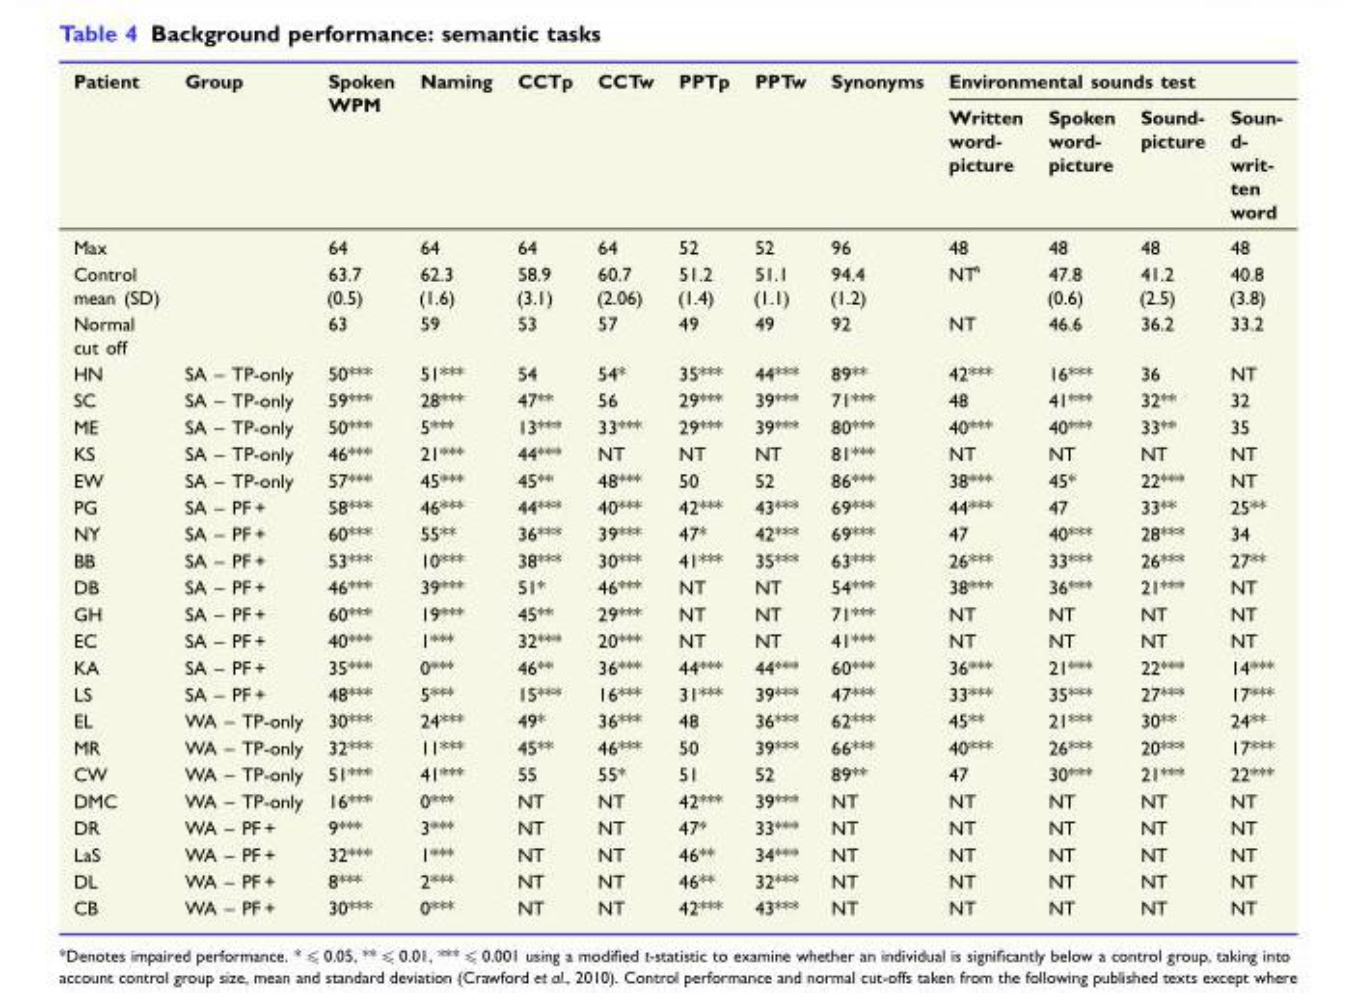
<table><thead><tr><td rowspan="2">Patient</td><td rowspan="2">Group</td><td rowspan="2">Spoken WPM</td><td rowspan="2">Naming</td><td rowspan="2">CCTp</td><td rowspan="2">CCTw</td><td rowspan="2">PPTp</td><td rowspan="2">PPTw</td><td rowspan="2">Synonyms</td><td colspan="4">Environmental sounds test</td></tr><tr><td>Written word- picture</td><td>Spoken word- picture</td><td>Sound- picture</td><td>Soun- d- writ- ten word</td></tr></thead><tbody><tr><td>Max</td><td></td><td>64</td><td>64</td><td>64</td><td>64</td><td>52</td><td>52</td><td>96</td><td>48</td><td>48</td><td>48</td><td>48</td></tr><tr><td>Control mean (SD)</td><td></td><td>63.7 (0.5)</td><td>62.3 (1.6)</td><td>58.9 (3.1)</td><td>60.7 (2.06)</td><td>51.2 (1.4)</td><td>51.1 (1.1)</td><td>94.4 (1.2)</td><td>NT<sup>a</sup></td><td>47.8 (0.6)</td><td>41.2 (2.5)</td><td>40.8 (3.8)</td></tr><tr><td>Normal cut off</td><td></td><td>63</td><td>59</td><td>53</td><td>57</td><td>49</td><td>49</td><td>92</td><td>NT</td><td>46.6</td><td>36.2</td><td>33.2</td></tr><tr><td>HN</td><td>SA – TP-only</td><td>50***</td><td>51***</td><td>54</td><td>54*</td><td>35***</td><td>44***</td><td>89**</td><td>42***</td><td>16***</td><td>36</td><td>NT</td></tr><tr><td>SC</td><td>SA – TP-only</td><td>59***</td><td>28***</td><td>47**</td><td>56</td><td>29***</td><td>39***</td><td>71***</td><td>48</td><td>41***</td><td>32**</td><td>32</td></tr><tr><td>ME</td><td>SA – TP-only</td><td>50***</td><td>5***</td><td>13***</td><td>33***</td><td>29***</td><td>39***</td><td>80***</td><td>40***</td><td>40***</td><td>33**</td><td>35</td></tr><tr><td>KS</td><td>SA – TP-only</td><td>46***</td><td>21***</td><td>44***</td><td>NT</td><td>NT</td><td>NT</td><td>81***</td><td>NT</td><td>NT</td><td>NT</td><td>NT</td></tr><tr><td>EW</td><td>SA – TP-only</td><td>57***</td><td>45***</td><td>45**</td><td>48***</td><td>50</td><td>52</td><td>86***</td><td>38***</td><td>45*</td><td>22***</td><td>NT</td></tr><tr><td>PG</td><td>SA – PF +</td><td>58***</td><td>46***</td><td>44***</td><td>40***</td><td>42***</td><td>43***</td><td>69***</td><td>44***</td><td>47</td><td>33**</td><td>25**</td></tr><tr><td>NY</td><td>SA – PF +</td><td>60***</td><td>55**</td><td>36***</td><td>39***</td><td>47*</td><td>42***</td><td>69***</td><td>47</td><td>40***</td><td>28***</td><td>34</td></tr><tr><td>BB</td><td>SA – PF +</td><td>53***</td><td>10***</td><td>38***</td><td>30***</td><td>41***</td><td>35***</td><td>63***</td><td>26***</td><td>33***</td><td>26***</td><td>27**</td></tr><tr><td>DB</td><td>SA – PF +</td><td>46***</td><td>39***</td><td>51*</td><td>46***</td><td>NT</td><td>NT</td><td>54***</td><td>38***</td><td>36***</td><td>21***</td><td>NT</td></tr><tr><td>GH</td><td>SA – PF +</td><td>60***</td><td>19***</td><td>45**</td><td>29***</td><td>NT</td><td>NT</td><td>71***</td><td>NT</td><td>NT</td><td>NT</td><td>NT</td></tr><tr><td>EC</td><td>SA – PF +</td><td>40***</td><td>1***</td><td>32***</td><td>20***</td><td>NT</td><td>NT</td><td>41***</td><td>NT</td><td>NT</td><td>NT</td><td>NT</td></tr><tr><td>KA</td><td>SA – PF +</td><td>35***</td><td>0***</td><td>46**</td><td>36***</td><td>44***</td><td>44***</td><td>60***</td><td>36***</td><td>21***</td><td>22***</td><td>14***</td></tr><tr><td>LS</td><td>SA – PF +</td><td>48***</td><td>5***</td><td>15***</td><td>16***</td><td>31***</td><td>39***</td><td>47***</td><td>33***</td><td>35***</td><td>27***</td><td>17***</td></tr><tr><td>EL</td><td>WA – TP-only</td><td>30***</td><td>24***</td><td>49*</td><td>36***</td><td>48</td><td>36***</td><td>62***</td><td>45**</td><td>21***</td><td>30**</td><td>24**</td></tr><tr><td>MR</td><td>WA – TP-only</td><td>32***</td><td>11***</td><td>45**</td><td>46***</td><td>50</td><td>39***</td><td>66***</td><td>40***</td><td>26***</td><td>20***</td><td>17***</td></tr><tr><td>CW</td><td>WA – TP-only</td><td>51***</td><td>41***</td><td>55</td><td>55*</td><td>51</td><td>52</td><td>89**</td><td>47</td><td>30***</td><td>21***</td><td>22***</td></tr><tr><td>DMC</td><td>WA – TP-only</td><td>16***</td><td>0***</td><td>NT</td><td>NT</td><td>42***</td><td>39***</td><td>NT</td><td>NT</td><td>NT</td><td>NT</td><td>NT</td></tr><tr><td>DR</td><td>WA – PF +</td><td>9***</td><td>3***</td><td>NT</td><td>NT</td><td>47*</td><td>33***</td><td>NT</td><td>NT</td><td>NT</td><td>NT</td><td>NT</td></tr><tr><td>LaS</td><td>WA – PF +</td><td>32***</td><td>1***</td><td>NT</td><td>NT</td><td>46**</td><td>34***</td><td>NT</td><td>NT</td><td>NT</td><td>NT</td><td>NT</td></tr><tr><td>DL</td><td>WA – PF +</td><td>8***</td><td>2***</td><td>NT</td><td>NT</td><td>46**</td><td>32***</td><td>NT</td><td>NT</td><td>NT</td><td>NT</td><td>NT</td></tr><tr><td>CB</td><td>WA – PF +</td><td>30***</td><td>0***</td><td>NT</td><td>NT</td><td>42***</td><td>43***</td><td>NT</td><td>NT</td><td>NT</td><td>NT</td><td>NT</td></tr></tbody></table>